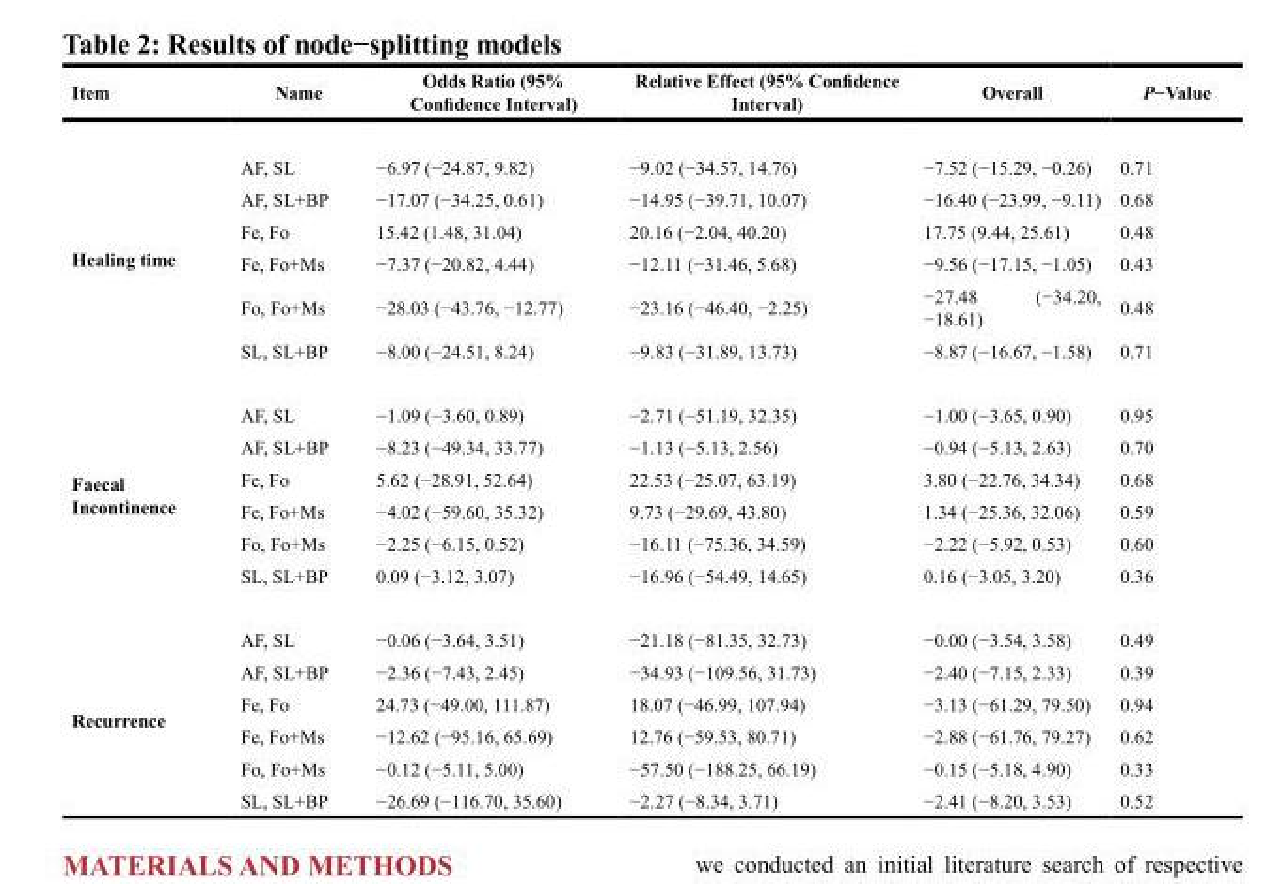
<table><thead><tr><td>Item</td><td>Name</td><td>Odds Ratio (95% Confidence Interval)</td><td>Relative Effect (95% Confidence Interval)</td><td>Overall</td><td>P−Value</td></tr></thead><tbody><tr><td rowspan="6">Healing time</td><td>AF, SL</td><td>−6.97 (−24.87, 9.82)</td><td>−9.02 (−34.57, 14.76)</td><td>−7.52 (−15.29, −0.26)</td><td>0.71</td></tr><tr><td>AF, SL+BP</td><td>−17.07 (−34.25, 0.61)</td><td>−14.95 (−39.71, 10.07)</td><td>−16.40 (−23.99, −9.11)</td><td>0.68</td></tr><tr><td>Fe, Fo</td><td>15.42 (1.48, 31.04)</td><td>20.16 (−2.04, 40.20)</td><td>17.75 (9.44, 25.61)</td><td>0.48</td></tr><tr><td>Fe, Fo+Ms</td><td>−7.37 (−20.82, 4.44)</td><td>−12.11 (−31.46, 5.68)</td><td>−9.56 (−17.15, −1.05)</td><td>0.43</td></tr><tr><td>Fo, Fo+Ms</td><td>−28.03 (−43.76, −12.77)</td><td>−23.16 (−46.40, −2.25)</td><td>−27.48 (−34.20, −18.61)</td><td>0.48</td></tr><tr><td>SL, SL+BP</td><td>−8.00 (−24.51, 8.24)</td><td>−9.83 (−31.89, 13.73)</td><td>−8.87 (−16.67, −1.58)</td><td>0.71</td></tr><tr><td rowspan="6">Faecal Incontinence</td><td>AF, SL</td><td>−1.09 (−3.60, 0.89)</td><td>−2.71 (−51.19, 32.35)</td><td>−1.00 (−3.65, 0.90)</td><td>0.95</td></tr><tr><td>AF, SL+BP</td><td>−8.23 (−49.34, 33.77)</td><td>−1.13 (−5.13, 2.56)</td><td>−0.94 (−5.13, 2.63)</td><td>0.70</td></tr><tr><td>Fe, Fo</td><td>5.62 (−28.91, 52.64)</td><td>22.53 (−25.07, 63.19)</td><td>3.80 (−22.76, 34.34)</td><td>0.68</td></tr><tr><td>Fe, Fo+Ms</td><td>−4.02 (−59.60, 35.32)</td><td>9.73 (−29.69, 43.80)</td><td>1.34 (−25.36, 32.06)</td><td>0.59</td></tr><tr><td>Fo, Fo+Ms</td><td>−2.25 (−6.15, 0.52)</td><td>−16.11 (−75.36, 34.59)</td><td>−2.22 (−5.92, 0.53)</td><td>0.60</td></tr><tr><td>SL, SL+BP</td><td>0.09 (−3.12, 3.07)</td><td>−16.96 (−54.49, 14.65)</td><td>0.16 (−3.05, 3.20)</td><td>0.36</td></tr><tr><td rowspan="6">Recurrence</td><td>AF, SL</td><td>−0.06 (−3.64, 3.51)</td><td>−21.18 (−81.35, 32.73)</td><td>−0.00 (−3.54, 3.58)</td><td>0.49</td></tr><tr><td>AF, SL+BP</td><td>−2.36 (−7.43, 2.45)</td><td>−34.93 (−109.56, 31.73)</td><td>−2.40 (−7.15, 2.33)</td><td>0.39</td></tr><tr><td>Fe, Fo</td><td>24.73 (−49.00, 111.87)</td><td>18.07 (−46.99, 107.94)</td><td>−3.13 (−61.29, 79.50)</td><td>0.94</td></tr><tr><td>Fe, Fo+Ms</td><td>−12.62 (−95.16, 65.69)</td><td>12.76 (−59.53, 80.71)</td><td>−2.88 (−61.76, 79.27)</td><td>0.62</td></tr><tr><td>Fo, Fo+Ms</td><td>−0.12 (−5.11, 5.00)</td><td>−57.50 (−188.25, 66.19)</td><td>−0.15 (−5.18, 4.90)</td><td>0.33</td></tr><tr><td>SL, SL+BP</td><td>−26.69 (−116.70, 35.60)</td><td>−2.27 (−8.34, 3.71)</td><td>−2.41 (−8.20, 3.53)</td><td>0.52</td></tr></tbody></table>